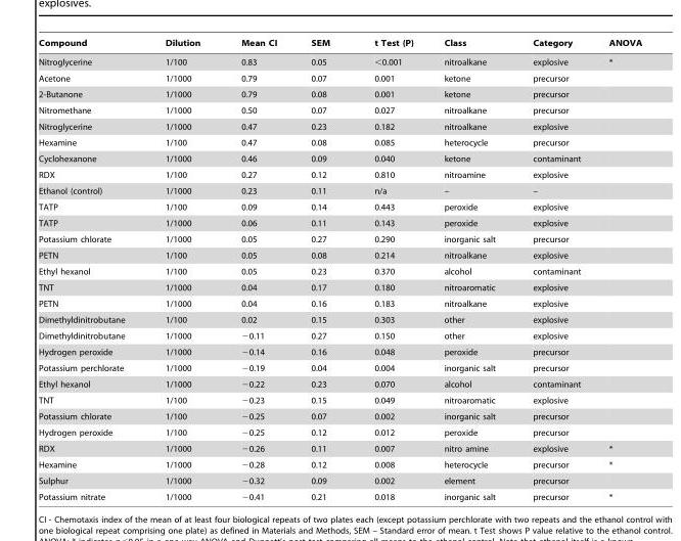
<table><thead><tr><td>Compound</td><td>Dilution</td><td>Mean CI</td><td>SEM</td><td>t Test (P)</td><td>Class</td><td>Category</td><td>ANOVA</td></tr></thead><tbody><tr><td>Nitroglycerine</td><td>1/100</td><td>0.83</td><td>0.05</td><td>&lt;0.001</td><td>nitroalkane</td><td>explosive</td><td>*</td></tr><tr><td>Acetone</td><td>1/1000</td><td>0.79</td><td>0.07</td><td>0.001</td><td>ketone</td><td>precursor</td><td></td></tr><tr><td>2-Butanone</td><td>1/1000</td><td>0.79</td><td>0.08</td><td>0.001</td><td>ketone</td><td>precursor</td><td></td></tr><tr><td>Nitromethane</td><td>1/1000</td><td>0.50</td><td>0.07</td><td>0.027</td><td>nitroalkane</td><td>precursor</td><td></td></tr><tr><td>Nitroglycerine</td><td>1/1000</td><td>0.47</td><td>0.23</td><td>0.182</td><td>nitroalkane</td><td>explosive</td><td></td></tr><tr><td>Hexamine</td><td>1/100</td><td>0.47</td><td>0.08</td><td>0.085</td><td>heterocycle</td><td>precursor</td><td></td></tr><tr><td>Cyclohexanone</td><td>1/1000</td><td>0.46</td><td>0.09</td><td>0.040</td><td>ketone</td><td>contaminant</td><td></td></tr><tr><td>RDX</td><td>1/100</td><td>0.27</td><td>0.12</td><td>0.810</td><td>nitroamine</td><td>explosive</td><td></td></tr><tr><td>Ethanol (control)</td><td>1/1000</td><td>0.23</td><td>0.11</td><td>n/a</td><td>–</td><td>–</td><td></td></tr><tr><td>TATP</td><td>1/100</td><td>0.09</td><td>0.14</td><td>0.443</td><td>peroxide</td><td>explosive</td><td></td></tr><tr><td>TATP</td><td>1/1000</td><td>0.06</td><td>0.11</td><td>0.143</td><td>peroxide</td><td>explosive</td><td></td></tr><tr><td>Potassium chlorate</td><td>1/1000</td><td>0.05</td><td>0.27</td><td>0.290</td><td>inorganic salt</td><td>precursor</td><td></td></tr><tr><td>PETN</td><td>1/100</td><td>0.05</td><td>0.08</td><td>0.214</td><td>nitroalkane</td><td>explosive</td><td></td></tr><tr><td>Ethyl hexanol</td><td>1/100</td><td>0.05</td><td>0.23</td><td>0.370</td><td>alcohol</td><td>contaminant</td><td></td></tr><tr><td>TNT</td><td>1/1000</td><td>0.04</td><td>0.17</td><td>0.180</td><td>nitroaromatic</td><td>explosive</td><td></td></tr><tr><td>PETN</td><td>1/1000</td><td>0.04</td><td>0.16</td><td>0.183</td><td>nitroalkane</td><td>explosive</td><td></td></tr><tr><td>Dimethyldinitrobutane</td><td>1/100</td><td>0.02</td><td>0.15</td><td>0.303</td><td>other</td><td>explosive</td><td></td></tr><tr><td>Dimethyldinitrobutane</td><td>1/1000</td><td>−0.11</td><td>0.27</td><td>0.150</td><td>other</td><td>explosive</td><td></td></tr><tr><td>Hydrogen peroxide</td><td>1/1000</td><td>−0.14</td><td>0.16</td><td>0.048</td><td>peroxide</td><td>precursor</td><td></td></tr><tr><td>Potassium perchlorate</td><td>1/1000</td><td>−0.19</td><td>0.04</td><td>0.004</td><td>inorganic salt</td><td>precursor</td><td></td></tr><tr><td>Ethyl hexanol</td><td>1/1000</td><td>−0.22</td><td>0.23</td><td>0.070</td><td>alcohol</td><td>contaminant</td><td></td></tr><tr><td>TNT</td><td>1/100</td><td>−0.23</td><td>0.15</td><td>0.049</td><td>nitroaromatic</td><td>explosive</td><td></td></tr><tr><td>Potassium chlorate</td><td>1/100</td><td>−0.25</td><td>0.07</td><td>0.002</td><td>inorganic salt</td><td>precursor</td><td></td></tr><tr><td>Hydrogen peroxide</td><td>1/100</td><td>−0.25</td><td>0.12</td><td>0.012</td><td>peroxide</td><td>precursor</td><td></td></tr><tr><td>RDX</td><td>1/1000</td><td>−0.26</td><td>0.11</td><td>0.007</td><td>nitro amine</td><td>explosive</td><td>*</td></tr><tr><td>Hexamine</td><td>1/1000</td><td>−0.28</td><td>0.12</td><td>0.008</td><td>heterocycle</td><td>precursor</td><td>*</td></tr><tr><td>Sulphur</td><td>1/1000</td><td>−0.32</td><td>0.09</td><td>0.002</td><td>element</td><td>precursor</td><td></td></tr><tr><td>Potassium nitrate</td><td>1/1000</td><td>−0.41</td><td>0.21</td><td>0.018</td><td>inorganic salt</td><td>precursor</td><td>*</td></tr></tbody></table>